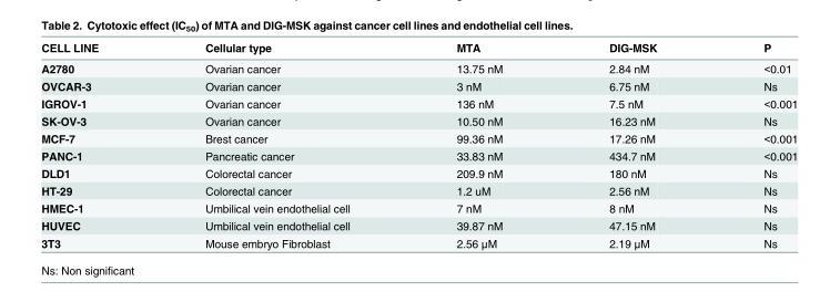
<table><thead><tr><td>CELL LINE</td><td>Cellular type</td><td>MTA</td><td>DIG-MSK</td><td>P</td></tr></thead><tbody><tr><td>A2780</td><td>Ovarian cancer</td><td>13.75 nM</td><td>2.84 nM</td><td>&lt;0.01</td></tr><tr><td>OVCAR-3</td><td>Ovarian cancer</td><td>3 nM</td><td>6.75 nM</td><td>Ns</td></tr><tr><td>IGROV-1</td><td>Ovarian cancer</td><td>136 nM</td><td>7.5 nM</td><td>&lt;0.001</td></tr><tr><td>SK-OV-3</td><td>Ovarian cancer</td><td>10.50 nM</td><td>16.23 nM</td><td>Ns</td></tr><tr><td>MCF-7</td><td>Brest cancer</td><td>99.36 nM</td><td>17.26 nM</td><td>&lt;0.001</td></tr><tr><td>PANC-1</td><td>Pancreatic cancer</td><td>33.83 nM</td><td>434.7 nM</td><td>&lt;0.001</td></tr><tr><td>DLD1</td><td>Colorectal cancer</td><td>209.9 nM</td><td>180 nM</td><td>Ns</td></tr><tr><td>HT-29</td><td>Colorectal cancer</td><td>1.2 uM</td><td>2.56 nM</td><td>Ns</td></tr><tr><td>HMEC-1</td><td>Umbilical vein endothelial cell</td><td>7 nM</td><td>8 nM</td><td>Ns</td></tr><tr><td>HUVEC</td><td>Umbilical vein endothelial cell</td><td>39.87 nM</td><td>47.15 nM</td><td>Ns</td></tr><tr><td>3T3</td><td>Mouse embryo Fibroblast</td><td>2.56 μM</td><td>2.19 μM</td><td>Ns</td></tr></tbody></table>